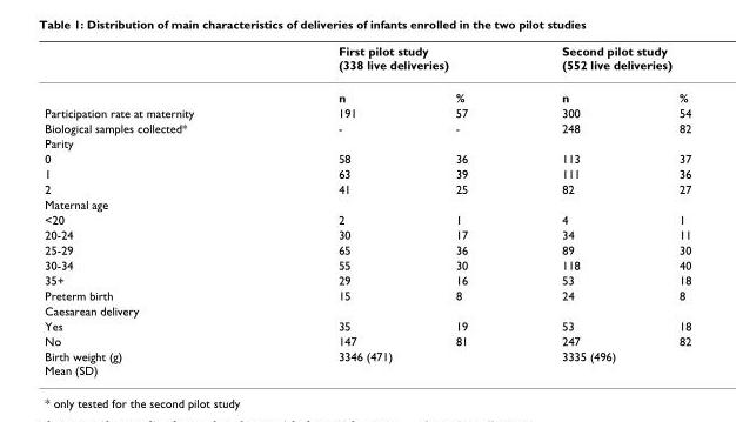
<table><thead><tr><td rowspan="2"></td><td colspan="2">First pilot study (338 live deliveries)</td><td colspan="2">Second pilot study (552 live deliveries)</td></tr><tr><td>n</td><td>%</td><td>n</td><td>%</td></tr></thead><tbody><tr><td>Participation rate at maternity</td><td>191</td><td>57</td><td>300</td><td>54</td></tr><tr><td>Biological samples collected*</td><td>-</td><td>-</td><td>248</td><td>82</td></tr><tr><td colspan="5">Parity</td></tr><tr><td>0</td><td>58</td><td>36</td><td>113</td><td>37</td></tr><tr><td>1</td><td>63</td><td>39</td><td>111</td><td>36</td></tr><tr><td>2</td><td>41</td><td>25</td><td>82</td><td>27</td></tr><tr><td colspan="5">Maternal age</td></tr><tr><td>&lt;20</td><td>2</td><td>1</td><td>4</td><td>1</td></tr><tr><td>20-24</td><td>30</td><td>17</td><td>34</td><td>11</td></tr><tr><td>25-29</td><td>65</td><td>36</td><td>89</td><td>30</td></tr><tr><td>30-34</td><td>55</td><td>30</td><td>118</td><td>40</td></tr><tr><td>35+</td><td>29</td><td>16</td><td>53</td><td>18</td></tr><tr><td>Preterm birth</td><td>15</td><td>8</td><td>24</td><td>8</td></tr><tr><td colspan="5">Caesarean delivery</td></tr><tr><td>Yes</td><td>35</td><td>19</td><td>53</td><td>18</td></tr><tr><td>No</td><td>147</td><td>81</td><td>247</td><td>82</td></tr><tr><td>Birth weight (g) Mean (SD)</td><td colspan="2">3346 (471)</td><td colspan="2">3335 (496)</td></tr></tbody></table>